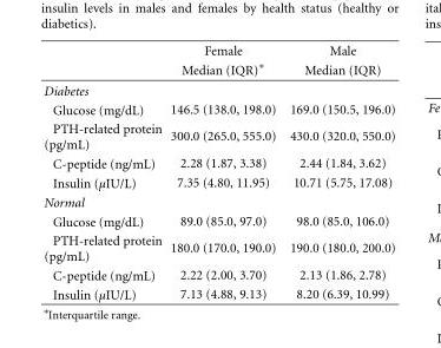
<table><thead><tr><td rowspan="2"></td><td rowspan="2">Female Median (IQR)∗</td><td rowspan="2">Male Median (IQR)</td></tr><tr></tr></thead><tbody><tr><td colspan="3">Diabetes</td></tr><tr><td>Glucose (mg/dL)</td><td>146.5 (138.0, 198.0)</td><td>169.0 (150.5, 196.0)</td></tr><tr><td>PTH-related protein (pg/mL)</td><td>300.0 (265.0, 555.0)</td><td>430.0 (320.0, 550.0)</td></tr><tr><td>C-peptide (ng/mL)</td><td>2.28 (1.87, 3.38)</td><td>2.44 (1.84, 3.62)</td></tr><tr><td>Insulin (μIU/L)</td><td>7.35 (4.80, 11.95)</td><td>10.71 (5.75, 17.08)</td></tr><tr><td colspan="3">Normal</td></tr><tr><td>Glucose (mg/dL)</td><td>89.0 (85.0, 97.0)</td><td>98.0 (85.0, 106.0)</td></tr><tr><td>PTH-related protein (pg/mL)</td><td>180.0 (170.0, 190.0)</td><td>190.0 (180.0, 200.0)</td></tr><tr><td>C-peptide (ng/mL)</td><td>2.22 (2.00, 3.70)</td><td>2.13 (1.86, 2.78)</td></tr><tr><td>Insulin (μIU/L)</td><td>7.13 (4.88, 9.13)</td><td>8.20 (6.39, 10.99)</td></tr></tbody></table>